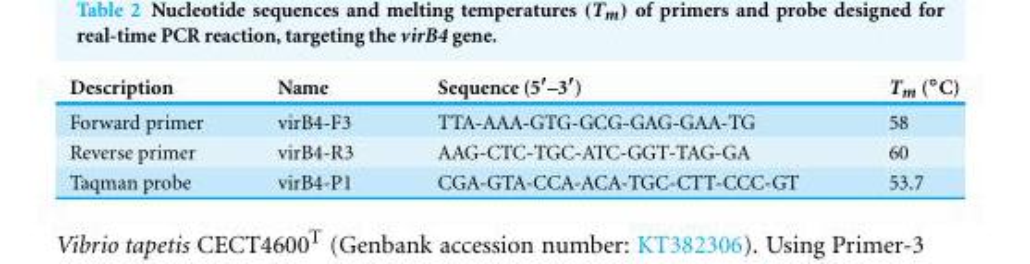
<table><thead><tr><td>Description</td><td>Name</td><td>Sequence (5′–3′)</td><td>Tm (◦C)</td></tr></thead><tbody><tr><td>Forward primer</td><td>virB4-F3</td><td>TTA-AAA-GTG-GCG-GAG-GAA-TG</td><td>58</td></tr><tr><td>Reverse primer</td><td>virB4-R3</td><td>AAG-CTC-TGC-ATC-GGT-TAG-GA</td><td>60</td></tr><tr><td>Taqman probe</td><td>virB4-P1</td><td>CGA-GTA-CCA-ACA-TGC-CTT-CCC-GT</td><td>53.7</td></tr></tbody></table>